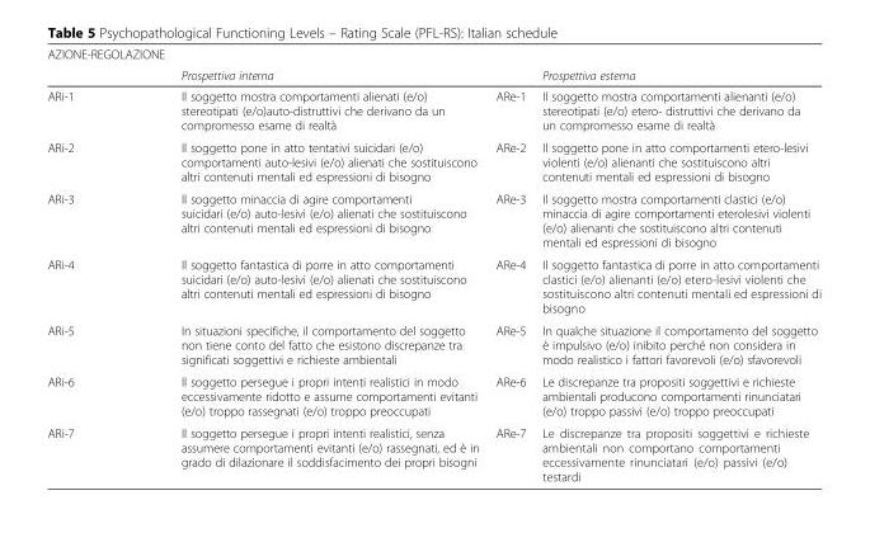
<table><thead><tr><td rowspan="2">AZIONE-REGOLAZIONE</td><td rowspan="2">Prospettiva interna</td><td rowspan="2"></td><td rowspan="2">Prospettiva esterna</td></tr><tr></tr></thead><tbody><tr><td>ARi-1</td><td>Il soggetto mostra comportamenti alienati (e/o) stereotipati (e/o)auto-distruttivi che derivano da un compromesso esame di realtà</td><td>ARe-1</td><td>Il soggetto mostra comportamenti alienanti (e/o) stereotipati (e/o) etero- distruttivi che derivano da un compromesso esame di realtà</td></tr><tr><td>ARi-2</td><td>Il soggetto pone in atto tentativi suicidari (e/o) comportamenti auto-lesivi (e/o) alienati che sostituiscono altri contenuti mentali ed espressioni di bisogno</td><td>ARe-2</td><td>Il soggetto pone in atto comportamenti etero-lesivi violenti (e/o) alienanti che sostituiscono altri contenuti mentali ed espressioni di bisogno</td></tr><tr><td>ARi-3</td><td>Il soggetto minaccia di agire comportamenti suicidari (e/o) auto-lesivi (e/o) alienati che sostituiscono altri contenuti mentali ed espressioni di bisogno</td><td>ARe-3</td><td>Il soggetto mostra comportamenti clastici (e/o) minaccia di agire comportamenti eterolesivi violenti (e/o) alienanti che sostituiscono altri contenuti mentali ed espressioni di bisogno</td></tr><tr><td>ARi-4</td><td>Il soggetto fantastica di porre in atto comportamenti suicidari (e/o) auto-lesivi (e/o) alienati che sostituiscono altri contenuti mentali ed espressioni di bisogno</td><td>ARe-4</td><td>Il soggetto fantastica di porre in atto comportamenti clastici (e/o) alienanti (e/o) etero-lesivi violenti che sostituiscono altri contenuti mentali ed espressioni di bisogno</td></tr><tr><td>ARi-5</td><td>In situazioni specifiche, il comportamento del soggetto non tiene conto del fatto che esistono discrepanze tra significati soggettivi e richieste ambientali</td><td>ARe-5</td><td>In qualche situazione il comportamento del soggetto è impulsivo (e/o) inibito perché non considera in modo realistico i fattori favorevoli (e/o) sfavorevoli</td></tr><tr><td>ARi-6</td><td>Il soggetto persegue i propri intenti realistici in modo eccessivamente ridotto e assume comportamenti evitanti (e/o) troppo rassegnati (e/o) troppo preoccupati</td><td>ARe-6</td><td>Le discrepanze tra propositi soggettivi e richieste ambientali producono comportamenti rinunciatari (e/o) troppo passivi (e/o) troppo preoccupati</td></tr><tr><td>ARi-7</td><td>Il soggetto persegue i propri intenti realistici, senza assumere comportamenti evitanti (e/o) rassegnati, ed è in grado di dilazionare il soddisfacimento dei propri bisogni</td><td>ARe-7</td><td>Le discrepanze tra propositi soggettivi e richieste ambientali non comportano comportamenti eccessivamente rinunciatari (e/o) passivi (e/o) testardi</td></tr></tbody></table>